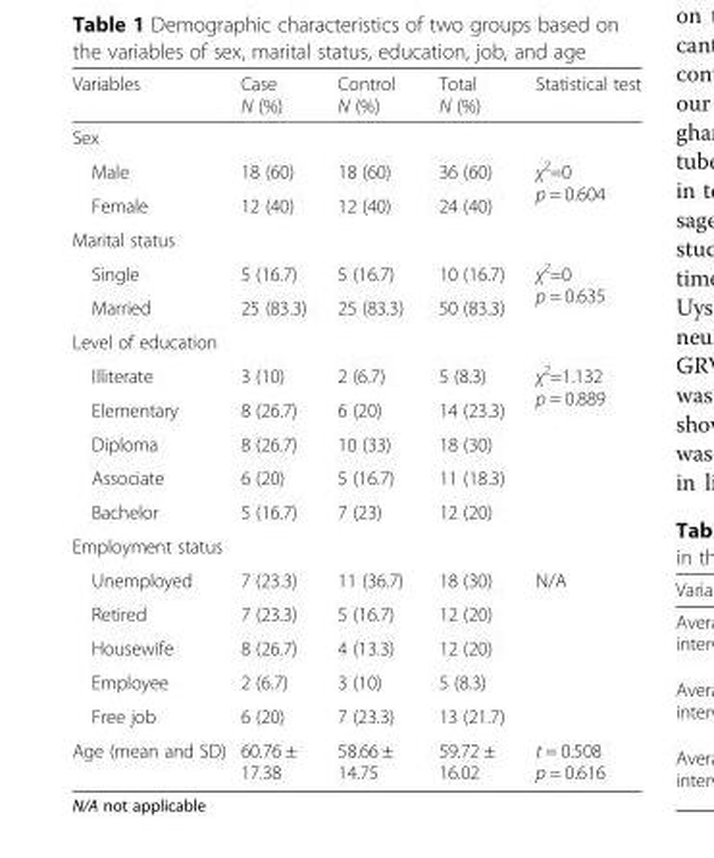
<table><thead><tr><td>Variables</td><td>Case N (%)</td><td>Control N (%)</td><td>Total N (%)</td><td>Statistical test</td></tr></thead><tbody><tr><td colspan="5">Sex</td></tr><tr><td>Male</td><td>18 (60)</td><td>18 (60)</td><td>36 (60)</td><td rowspan="2">χ<sup>2</sup>=0 p = 0.604</td></tr><tr><td>Female</td><td>12 (40)</td><td>12 (40)</td><td>24 (40)</td></tr><tr><td colspan="5">Marital status</td></tr><tr><td>Single</td><td>5 (16.7)</td><td>5 (16.7)</td><td>10 (16.7)</td><td rowspan="2">χ<sup>2</sup>=0 p = 0.635</td></tr><tr><td>Married</td><td>25 (83.3)</td><td>25 (83.3)</td><td>50 (83.3)</td></tr><tr><td colspan="5">Level of education</td></tr><tr><td>Illiterate</td><td>3 (10)</td><td>2 (6.7)</td><td>5 (8.3)</td><td rowspan="5">χ<sup>2</sup>=1.132 p = 0.889</td></tr><tr><td>Elementary</td><td>8 (26.7)</td><td>6 (20)</td><td>14 (23.3)</td></tr><tr><td>Diploma</td><td>8 (26.7)</td><td>10 (33)</td><td>18 (30)</td></tr><tr><td>Associate</td><td>6 (20)</td><td>5 (16.7)</td><td>11 (18.3)</td></tr><tr><td>Bachelor</td><td>5 (16.7)</td><td>7 (23)</td><td>12 (20)</td></tr><tr><td colspan="5">Employment status</td></tr><tr><td>Unemployed</td><td>7 (23.3)</td><td>11 (36.7)</td><td>18 (30)</td><td rowspan="5">N/A</td></tr><tr><td>Retired</td><td>7 (23.3)</td><td>5 (16.7)</td><td>12 (20)</td></tr><tr><td>Housewife</td><td>8 (26.7)</td><td>4 (13.3)</td><td>12 (20)</td></tr><tr><td>Employee</td><td>2 (6.7)</td><td>3 (10)</td><td>5 (8.3)</td></tr><tr><td>Free job</td><td>6 (20)</td><td>7 (23.3)</td><td>13 (21.7)</td></tr><tr><td>Age (mean and SD)</td><td>60.76 ± 17.38</td><td>58.66 ± 14.75</td><td>59.72 ± 16.02</td><td>t = 0.508 p = 0.616</td></tr></tbody></table>